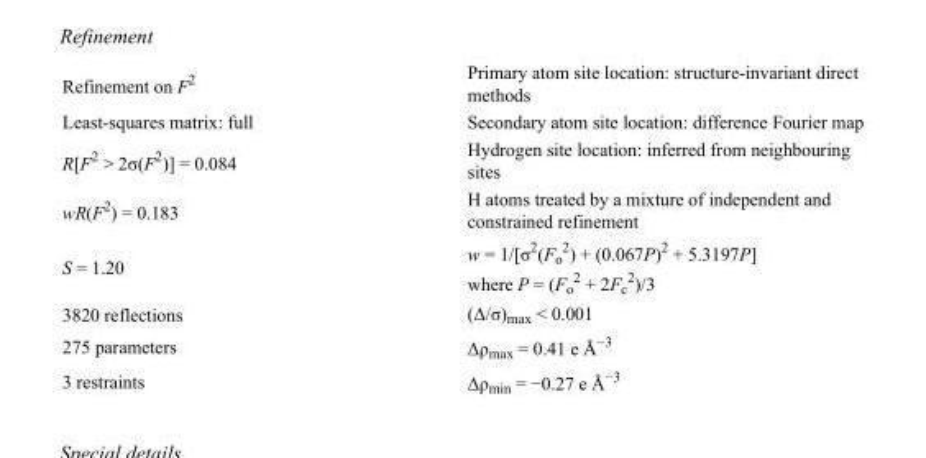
<table><tbody><tr><td>Refinement on F<sup>2</sup></td><td>Primary atom site location: structure-invariant direct methods</td></tr><tr><td>Least-squares matrix: full</td><td>Secondary atom site location: difference Fourier map</td></tr><tr><td>R[F<sup>2</sup> &gt; 2σ(F<sup>2</sup>)] = 0.084</td><td>Hydrogen site location: inferred from neighbouring sites</td></tr><tr><td>wR(F<sup>2</sup>) = 0.183</td><td>H atoms treated by a mixture of independent and constrained refinement</td></tr><tr><td>S = 1.20</td><td>w = 1/[σ<sup>2</sup>(F<sub>o</sub> <sup>2</sup>) + (0.067P)<sup>2</sup> + 5.3197P] where P = (F<sub>o</sub> <sup>2</sup> + 2F<sub>c</sub> <sup>2</sup>)/3</td></tr><tr><td>3820 reflections</td><td>(Δ/σ)<sub>max</sub> &lt; 0.001</td></tr><tr><td>275 parameters</td><td>Δρ<sub>max</sub> = 0.41 e Å<sup>−3</sup></td></tr><tr><td>3 restraints</td><td>Δρ<sub>min</sub> = −0.27 e Å<sup>−3</sup></td></tr></tbody></table>